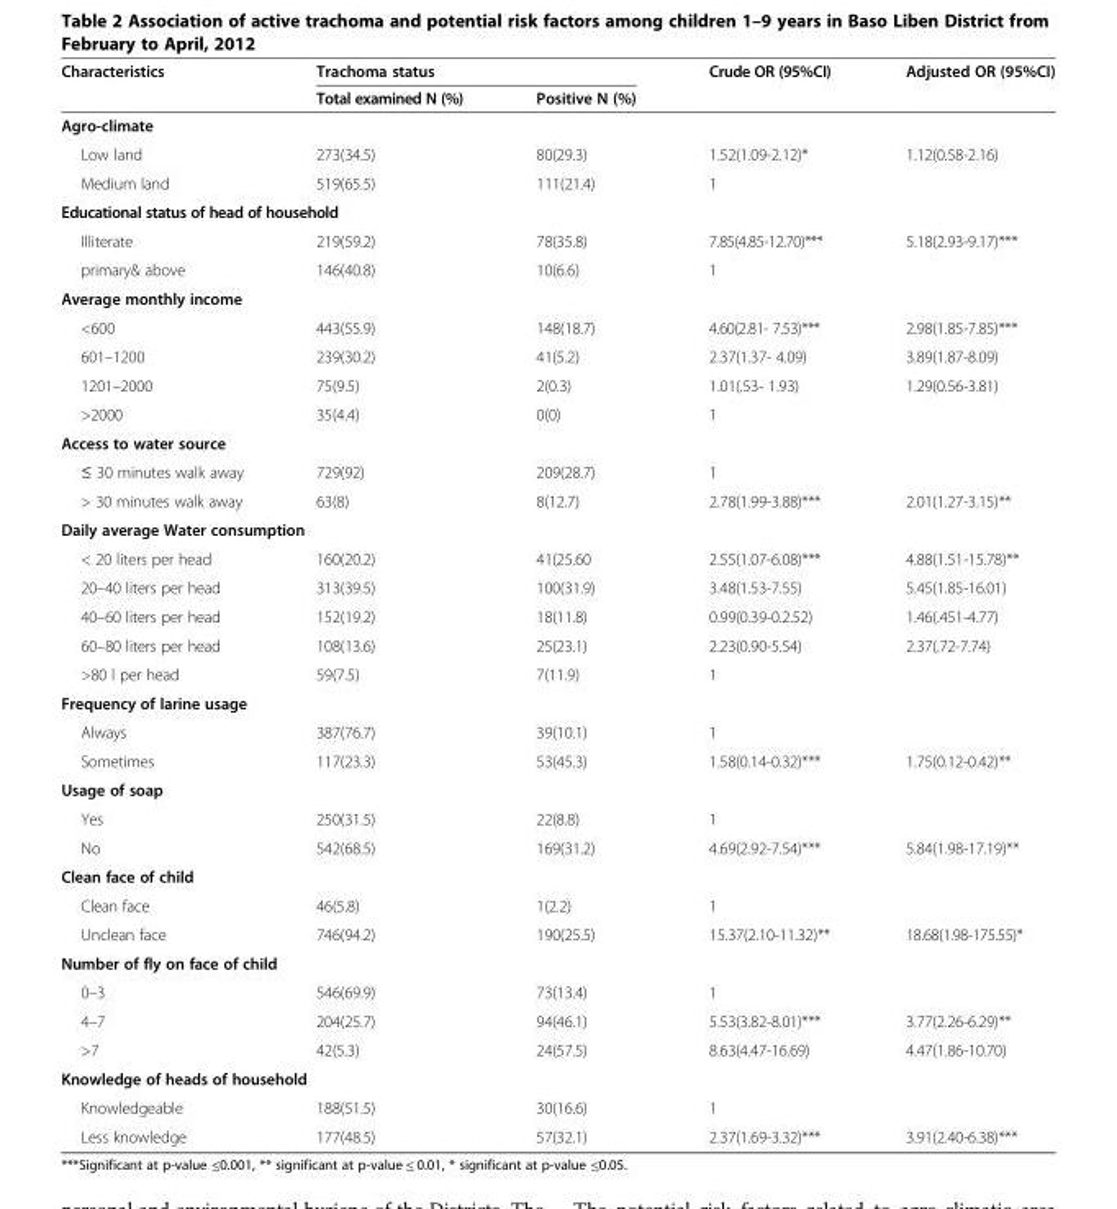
<table><thead><tr><td rowspan="2">Characteristics</td><td colspan="2">Trachoma status</td><td rowspan="2">Crude OR (95%CI)</td><td rowspan="2">Adjusted OR (95%CI)</td></tr><tr><td>Total examined N (%)</td><td>Positive N (%)</td></tr></thead><tbody><tr><td colspan="5">Agro-climate</td></tr><tr><td>Low land</td><td>273(34.5)</td><td>80(29.3)</td><td>1.52(1.09-2.12)*</td><td>1.12(0.58-2.16)</td></tr><tr><td>Medium land</td><td>519(65.5)</td><td>111(21.4)</td><td>1</td><td></td></tr><tr><td colspan="5">Educational status of head of household</td></tr><tr><td>Illiterate</td><td>219(59.2)</td><td>78(35.8)</td><td>7.85(4.85-12.70)***</td><td>5.18(2.93-9.17)***</td></tr><tr><td>primary&amp; above</td><td>146(40.8)</td><td>10(6.6)</td><td>1</td><td></td></tr><tr><td colspan="5">Average monthly income</td></tr><tr><td>&lt;600</td><td>443(55.9)</td><td>148(18.7)</td><td>4.60(2.81- 7.53)***</td><td>2.98(1.85-7.85)***</td></tr><tr><td>601–1200</td><td>239(30.2)</td><td>41(5.2)</td><td>2.37(1.37- 4.09)</td><td>3.89(1.87-8.09)</td></tr><tr><td>1201–2000</td><td>75(9.5)</td><td>2(0.3)</td><td>1.01(.53- 1.93)</td><td>1.29(0.56-3.81)</td></tr><tr><td>&gt;2000</td><td>35(4.4)</td><td>0(0)</td><td>1</td><td></td></tr><tr><td colspan="5">Access to water source</td></tr><tr><td>≤ 30 minutes walk away</td><td>729(92)</td><td>209(28.7)</td><td>1</td><td></td></tr><tr><td>&gt; 30 minutes walk away</td><td>63(8)</td><td>8(12.7)</td><td>2.78(1.99-3.88)***</td><td>2.01(1.27-3.15)**</td></tr><tr><td colspan="5">Daily average Water consumption</td></tr><tr><td>&lt; 20 liters per head</td><td>160(20.2)</td><td>41(25.60</td><td>2.55(1.07-6.08)***</td><td>4.88(1.51-15.78)**</td></tr><tr><td>20–40 liters per head</td><td>313(39.5)</td><td>100(31.9)</td><td>3.48(1.53-7.55)</td><td>5.45(1.85-16.01)</td></tr><tr><td>40–60 liters per head</td><td>152(19.2)</td><td>18(11.8)</td><td>0.99(0.39-0.2.52)</td><td>1.46(.451-4.77)</td></tr><tr><td>60–80 liters per head</td><td>108(13.6)</td><td>25(23.1)</td><td>2.23(0.90-5.54)</td><td>2.37(.72-7.74)</td></tr><tr><td>&gt;80 l per head</td><td>59(7.5)</td><td>7(11.9)</td><td>1</td><td></td></tr><tr><td colspan="5">Frequency of larine usage</td></tr><tr><td>Always</td><td>387(76.7)</td><td>39(10.1)</td><td>1</td><td></td></tr><tr><td>Sometimes</td><td>117(23.3)</td><td>53(45.3)</td><td>1.58(0.14-0.32)***</td><td>1.75(0.12-0.42)**</td></tr><tr><td colspan="5">Usage of soap</td></tr><tr><td>Yes</td><td>250(31.5)</td><td>22(8.8)</td><td>1</td><td></td></tr><tr><td>No</td><td>542(68.5)</td><td>169(31.2)</td><td>4.69(2.92-7.54)***</td><td>5.84(1.98-17.19)**</td></tr><tr><td colspan="5">Clean face of child</td></tr><tr><td>Clean face</td><td>46(5.8)</td><td>1(2.2)</td><td>1</td><td></td></tr><tr><td>Unclean face</td><td>746(94.2)</td><td>190(25.5)</td><td>15.37(2.10-11.32)**</td><td>18.68(1.98-175.55)*</td></tr><tr><td colspan="5">Number of fly on face of child</td></tr><tr><td>0–3</td><td>546(69.9)</td><td>73(13.4)</td><td>1</td><td></td></tr><tr><td>4–7</td><td>204(25.7)</td><td>94(46.1)</td><td>5.53(3.82-8.01)***</td><td>3.77(2.26-6.29)**</td></tr><tr><td>&gt;7</td><td>42(5.3)</td><td>24(57.5)</td><td>8.63(4.47-16.69)</td><td>4.47(1.86-10.70)</td></tr><tr><td colspan="5">Knowledge of heads of household</td></tr><tr><td>Knowledgeable</td><td>188(51.5)</td><td>30(16.6)</td><td>1</td><td></td></tr><tr><td>Less knowledge</td><td>177(48.5)</td><td>57(32.1)</td><td>2.37(1.69-3.32)***</td><td>3.91(2.40-6.38)***</td></tr></tbody></table>